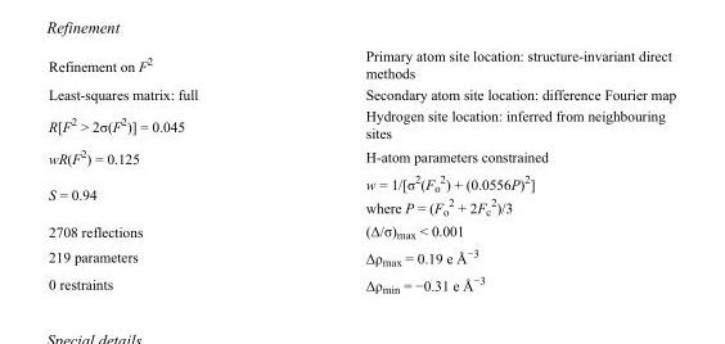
<table><tbody><tr><td>Refinement on F<sup>2</sup></td><td>Primary atom site location: structure-invariant direct methods</td></tr><tr><td>Least-squares matrix: full</td><td>Secondary atom site location: difference Fourier map</td></tr><tr><td>R[F<sup>2</sup> &gt; 2σ(F<sup>2</sup>)] = 0.045</td><td>Hydrogen site location: inferred from neighbouring sites</td></tr><tr><td>wR(F<sup>2</sup>) = 0.125</td><td>H-atom parameters constrained</td></tr><tr><td>S = 0.94</td><td>w = 1/[σ<sup>2</sup>(F<sub>o</sub> <sup>2</sup>) + (0.0556P)<sup>2</sup>] where P = (F<sub>o</sub> <sup>2</sup> + 2F<sub>c</sub> <sup>2</sup>)/3</td></tr><tr><td>2708 reflections</td><td>(Δ/σ)<sub>max</sub> &lt; 0.001</td></tr><tr><td>219 parameters</td><td>Δρ<sub>max</sub> = 0.19 e Å<sup>−3</sup></td></tr><tr><td>0 restraints</td><td>Δρ<sub>min</sub> = −0.31 e Å<sup>−3</sup></td></tr></tbody></table>